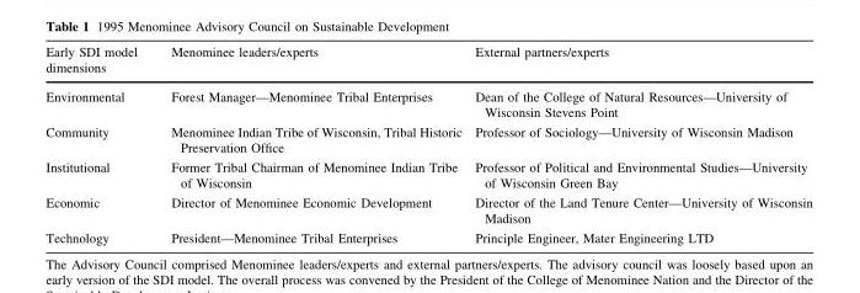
<table><thead><tr><td>Early SDI model dimensions</td><td>Menominee leaders/experts</td><td>External partners/experts</td></tr></thead><tbody><tr><td>Environmental</td><td>Forest Manager—Menominee Tribal Enterprises</td><td>Dean of the College of Natural Resources—University of Wisconsin Stevens Point</td></tr><tr><td>Community</td><td>Menominee Indian Tribe of Wisconsin, Tribal Historic Preservation Office</td><td>Professor of Sociology—University of Wisconsin Madison</td></tr><tr><td>Institutional</td><td>Former Tribal Chairman of Menominee Indian Tribe of Wisconsin</td><td>Professor of Political and Environmental Studies—University of Wisconsin Green Bay</td></tr><tr><td>Economic</td><td>Director of Menominee Economic Development</td><td>Director of the Land Tenure Center—University of Wisconsin Madison</td></tr><tr><td>Technology</td><td>President—Menominee Tribal Enterprises</td><td>Principle Engineer, Mater Engineering LTD</td></tr></tbody></table>